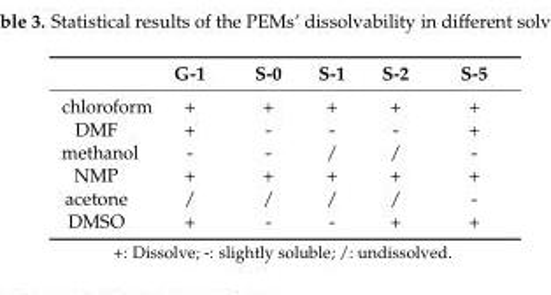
<table><thead><tr><td></td><td>G-1</td><td>S-0</td><td>S-1</td><td>S-2</td><td>S-5</td></tr></thead><tbody><tr><td>chloroform</td><td>+</td><td>+</td><td>+</td><td>+</td><td>+</td></tr><tr><td>DMF</td><td>+</td><td>-</td><td>-</td><td>-</td><td>+</td></tr><tr><td>methanol</td><td>-</td><td>-</td><td>/</td><td>/</td><td>-</td></tr><tr><td>NMP</td><td>+</td><td>+</td><td>+</td><td>+</td><td>+</td></tr><tr><td>acetone</td><td>/</td><td>/</td><td>/</td><td>/</td><td>-</td></tr><tr><td>DMSO</td><td>+</td><td>-</td><td>-</td><td>+</td><td>+</td></tr></tbody></table>